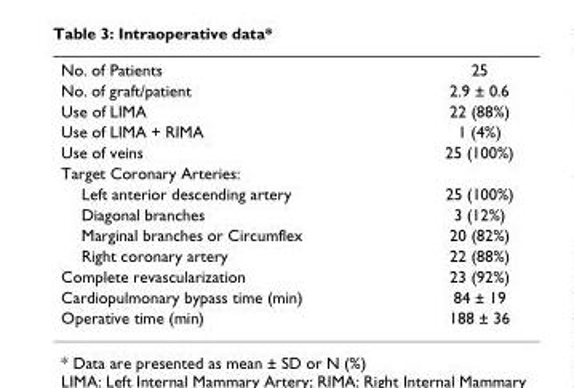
<table><tbody><tr><td>No. of Patients</td><td>25</td></tr><tr><td>No. of graft/patient</td><td>2.9 ± 0.6</td></tr><tr><td>Use of LIMA</td><td>22 (88%)</td></tr><tr><td>Use of LIMA + RIMA</td><td>1 (4%)</td></tr><tr><td>Use of veins</td><td>25 (100%)</td></tr><tr><td colspan="2">Target Coronary Arteries:</td></tr><tr><td>Left anterior descending artery</td><td>25 (100%)</td></tr><tr><td>Diagonal branches</td><td>3 (12%)</td></tr><tr><td>Marginal branches or Circumflex</td><td>20 (82%)</td></tr><tr><td>Right coronary artery</td><td>22 (88%)</td></tr><tr><td>Complete revascularization</td><td>23 (92%)</td></tr><tr><td>Cardiopulmonary bypass time (min)</td><td>84 ± 19</td></tr><tr><td>Operative time (min)</td><td>188 ± 36</td></tr></tbody></table>